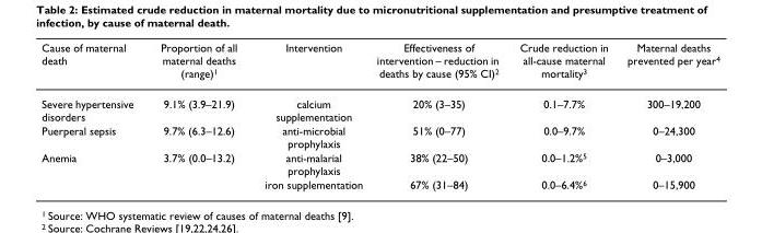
<table><thead><tr><td>Cause of maternal death</td><td>Proportion of all maternal deaths (range)<sup>1</sup></td><td>Intervention</td><td>Effectiveness of intervention – reduction in deaths by cause (95% CI)<sup>2</sup></td><td>Crude reduction in all-cause maternal mortality<sup>3</sup></td><td>Maternal deaths prevented per year<sup>4</sup></td></tr></thead><tbody><tr><td>Severe hypertensive disorders</td><td>9.1% (3.9–21.9)</td><td>calcium supplementation</td><td>20% (3–35)</td><td>0.1–7.7%</td><td>300–19,200</td></tr><tr><td>Puerperal sepsis</td><td>9.7% (6.3–12.6)</td><td>anti-microbial prophylaxis</td><td>51% (0–77)</td><td>0.0–9.7%</td><td>0–24,300</td></tr><tr><td rowspan="2">Anemia</td><td>3.7% (0.0–13.2)</td><td>anti-malarial prophylaxis</td><td>38% (22–50)</td><td>0.0–1.2%<sup>5</sup></td><td>0–3,000</td></tr><tr><td></td><td>iron supplementation</td><td>67% (31–84)</td><td>0.0–6.4%<sup>6</sup></td><td>0–15,900</td></tr></tbody></table>